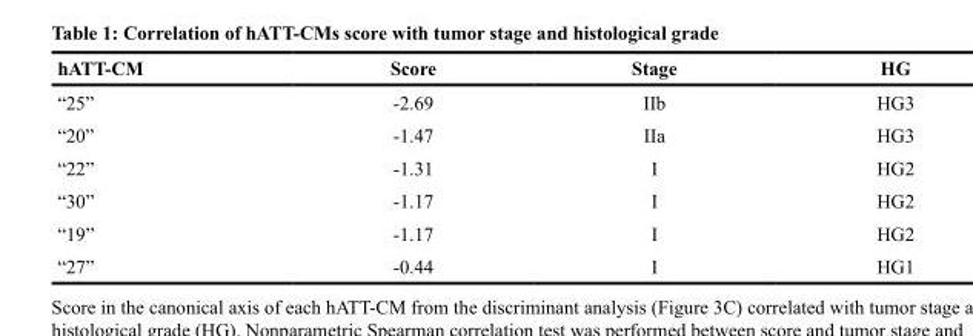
<table><thead><tr><td>hATT-CM</td><td>Score</td><td>Stage</td><td>HG</td></tr></thead><tbody><tr><td>“25”</td><td>-2.69</td><td>IIb</td><td>HG3</td></tr><tr><td>“20”</td><td>-1.47</td><td>IIa</td><td>HG3</td></tr><tr><td>“22”</td><td>-1.31</td><td>I</td><td>HG2</td></tr><tr><td>“30”</td><td>-1.17</td><td>I</td><td>HG2</td></tr><tr><td>“19”</td><td>-1.17</td><td>I</td><td>HG2</td></tr><tr><td>“27”</td><td>-0.44</td><td>I</td><td>HG1</td></tr></tbody></table>